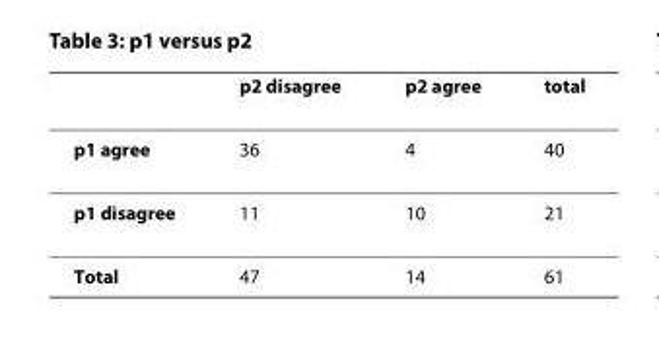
<table><thead><tr><td></td><td>p2 disagree</td><td>p2 agree</td><td>total</td></tr></thead><tbody><tr><td>p1 agree</td><td>36</td><td>4</td><td>40</td></tr><tr><td>p1 disagree</td><td>11</td><td>10</td><td>21</td></tr><tr><td>Total</td><td>47</td><td>14</td><td>61</td></tr></tbody></table>